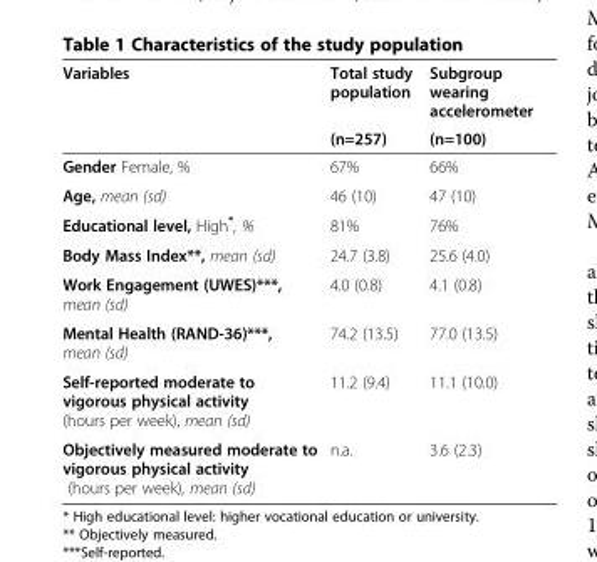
<table><thead><tr><td rowspan="2">Variables</td><td rowspan="2">Total study population (n=257)</td><td rowspan="2">Subgroup wearing accelerometer (n=100)</td></tr><tr></tr></thead><tbody><tr><td>Gender Female, %</td><td>67%</td><td>66%</td></tr><tr><td>Age, mean (sd)</td><td>46 (10)</td><td>47 (10)</td></tr><tr><td>Educational level, High*, %</td><td>81%</td><td>76%</td></tr><tr><td>Body Mass Index**, mean (sd)</td><td>24.7 (3.8)</td><td>25.6 (4.0)</td></tr><tr><td>Work Engagement (UWES)***, mean (sd)</td><td>4.0 (0.8)</td><td>4.1 (0.8)</td></tr><tr><td>Mental Health (RAND-36)***, mean (sd)</td><td>74.2 (13.5)</td><td>77.0 (13.5)</td></tr><tr><td>Self-reported moderate to vigorous physical activity (hours per week), mean (sd)</td><td>11.2 (9.4)</td><td>11.1 (10.0)</td></tr><tr><td>Objectively measured moderate to vigorous physical activity (hours per week), mean (sd)</td><td>n.a.</td><td>3.6 (2.3)</td></tr></tbody></table>